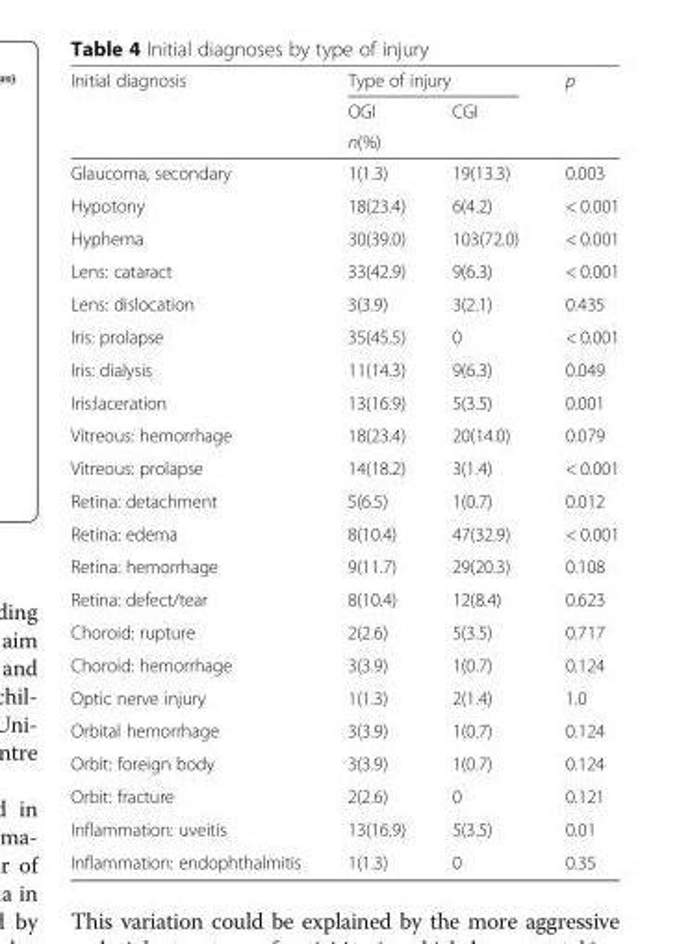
<table><thead><tr><td rowspan="3">Initial diagnosis</td><td colspan="2">Type of injury</td><td rowspan="3">p</td></tr><tr><td>OGI</td><td>CGI</td></tr><tr><td colspan="2">n(%)</td></tr></thead><tbody><tr><td>Glaucoma, secondary</td><td>1(1.3)</td><td>19(13.3)</td><td>0.003</td></tr><tr><td>Hypotony</td><td>18(23.4)</td><td>6(4.2)</td><td>&lt; 0.001</td></tr><tr><td>Hyphema</td><td>30(39.0)</td><td>103(72.0)</td><td>&lt; 0.001</td></tr><tr><td>Lens: cataract</td><td>33(42.9)</td><td>9(6.3)</td><td>&lt; 0.001</td></tr><tr><td>Lens: dislocation</td><td>3(3.9)</td><td>3(2.1)</td><td>0.435</td></tr><tr><td>Iris: prolapse</td><td>35(45.5)</td><td>0</td><td>&lt; 0.001</td></tr><tr><td>Iris: dialysis</td><td>11(14.3)</td><td>9(6.3)</td><td>0.049</td></tr><tr><td>Iris:laceration</td><td>13(16.9)</td><td>5(3.5)</td><td>0.001</td></tr><tr><td>Vitreous: hemorrhage</td><td>18(23.4)</td><td>20(14.0)</td><td>0.079</td></tr><tr><td>Vitreous: prolapse</td><td>14(18.2)</td><td>3(1.4)</td><td>&lt; 0.001</td></tr><tr><td>Retina: detachment</td><td>5(6.5)</td><td>1(0.7)</td><td>0.012</td></tr><tr><td>Retina: edema</td><td>8(10.4)</td><td>47(32.9)</td><td>&lt; 0.001</td></tr><tr><td>Retina: hemorrhage</td><td>9(11.7)</td><td>29(20.3)</td><td>0.108</td></tr><tr><td>Retina: defect/tear</td><td>8(10.4)</td><td>12(8.4)</td><td>0.623</td></tr><tr><td>Choroid: rupture</td><td>2(2.6)</td><td>5(3.5)</td><td>0.717</td></tr><tr><td>Choroid: hemorrhage</td><td>3(3.9)</td><td>1(0.7)</td><td>0.124</td></tr><tr><td>Optic nerve injury</td><td>1(1.3)</td><td>2(1.4)</td><td>1.0</td></tr><tr><td>Orbital hemorrhage</td><td>3(3.9)</td><td>1(0.7)</td><td>0.124</td></tr><tr><td>Orbit: foreign body</td><td>3(3.9)</td><td>1(0.7)</td><td>0.124</td></tr><tr><td>Orbit: fracture</td><td>2(2.6)</td><td>0</td><td>0.121</td></tr><tr><td>Inflammation: uveitis</td><td>13(16.9)</td><td>5(3.5)</td><td>0.01</td></tr><tr><td>Inflammation: endophthalmitis</td><td>1(1.3)</td><td>0</td><td>0.35</td></tr></tbody></table>